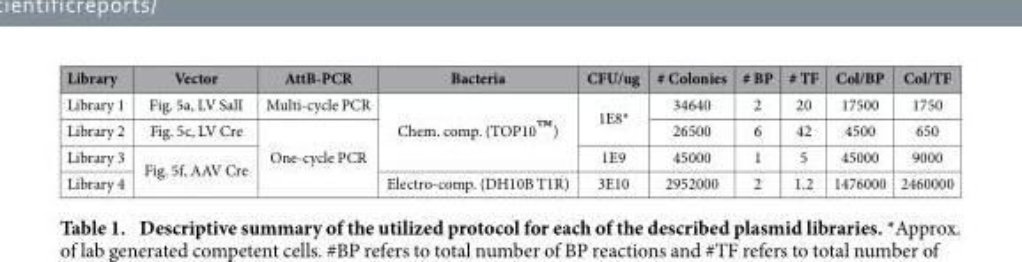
<table><thead><tr><td>Library</td><td>Vector</td><td>AttB-PCR</td><td>Bacteria</td><td>CFU/ug</td><td># Colonies</td><td># BP</td><td># TF</td><td>Col/BP</td><td>Col/TF</td></tr></thead><tbody><tr><td>Library 1</td><td>Fig. 5a, LV SalI</td><td>Multi-cycle PCR</td><td rowspan="3">Chem. comp. (TOP10™ )</td><td rowspan="2">1E8*</td><td>34640</td><td>2</td><td>20</td><td>17500</td><td>1750</td></tr><tr><td>Library 2</td><td>Fig. 5c, LV Cre</td><td rowspan="3">One-cycle PCR</td><td>26500</td><td>6</td><td>42</td><td>4500</td><td>650</td></tr><tr><td>Library 3</td><td rowspan="2">Fig. 5f, AAV Cre</td><td>1E9</td><td>45000</td><td>1</td><td>5</td><td>45000</td><td>9000</td></tr><tr><td>Library 4</td><td>Electro-comp. (DH10B T1R)</td><td>3E10</td><td>2952000</td><td>2</td><td>1.2</td><td>1476000</td><td>2460000</td></tr></tbody></table>